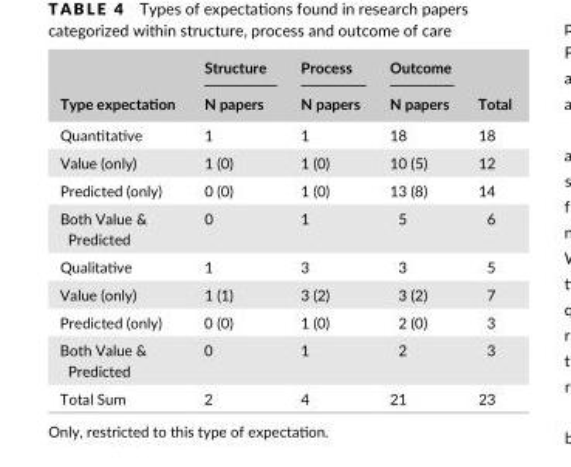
<table><thead><tr><td rowspan="2">Type expectation</td><td rowspan="2">Structure N papers</td><td rowspan="2">Process N papers</td><td rowspan="2">Outcome N papers</td><td rowspan="2">Total</td></tr><tr></tr></thead><tbody><tr><td>Quantitative</td><td>1</td><td>1</td><td>18</td><td>18</td></tr><tr><td>Value (only)</td><td>1 (0)</td><td>1 (0)</td><td>10 (5)</td><td>12</td></tr><tr><td>Predicted (only)</td><td>0 (0)</td><td>1 (0)</td><td>13 (8)</td><td>14</td></tr><tr><td>Both Value &amp; Predicted</td><td>0</td><td>1</td><td>5</td><td>6</td></tr><tr><td>Qualitative</td><td>1</td><td>3</td><td>3</td><td>5</td></tr><tr><td>Value (only)</td><td>1 (1)</td><td>3 (2)</td><td>3 (2)</td><td>7</td></tr><tr><td>Predicted (only)</td><td>0 (0)</td><td>1 (0)</td><td>2 (0)</td><td>3</td></tr><tr><td>Both Value &amp; Predicted</td><td>0</td><td>1</td><td>2</td><td>3</td></tr><tr><td>Total Sum</td><td>2</td><td>4</td><td>21</td><td>23</td></tr></tbody></table>